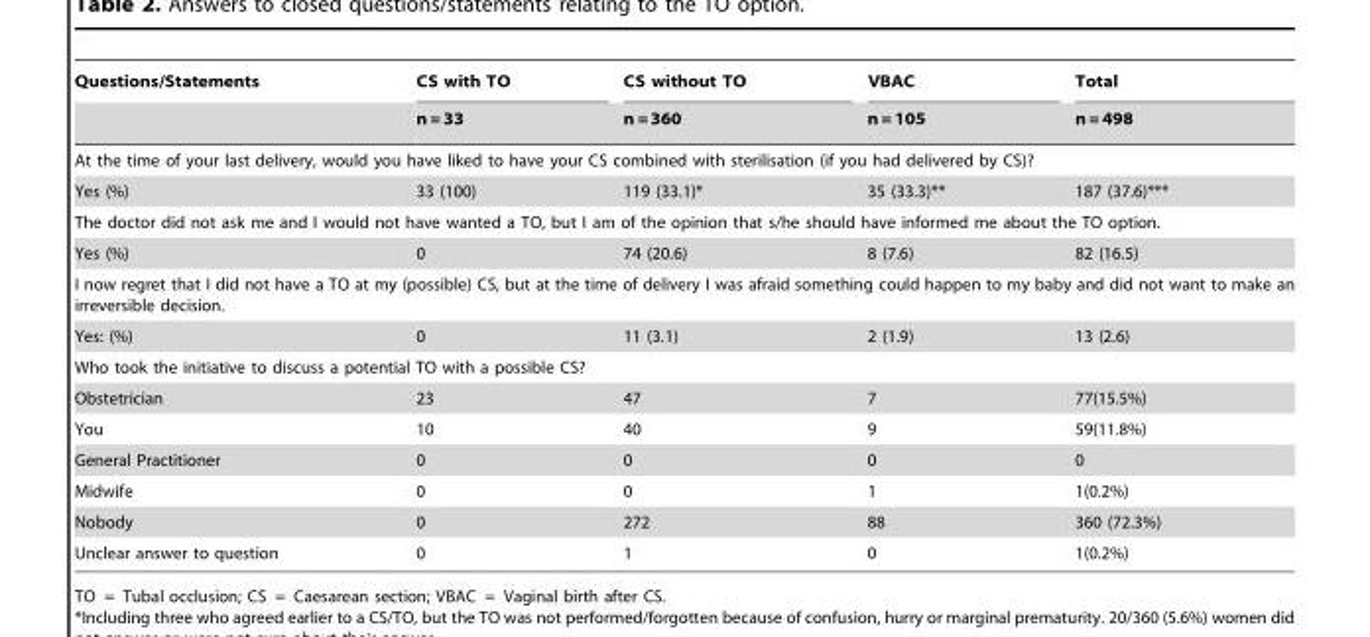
<table><thead><tr><td rowspan="2">Questions/Statements</td><td rowspan="2">CS with TO n = 33</td><td rowspan="2">CS without TO n = 360</td><td rowspan="2">VBAC n = 105</td><td rowspan="2">Total n = 498</td></tr><tr></tr></thead><tbody><tr><td colspan="5">At the time of your last delivery, would you have liked to have your CS combined with sterilisation (if you had delivered by CS)?</td></tr><tr><td>Yes (%)</td><td>33 (100)</td><td>119 (33.1)*</td><td>35 (33.3)**</td><td>187 (37.6)***</td></tr><tr><td colspan="5">The doctor did not ask me and I would not have wanted a TO, but I am of the opinion that s/he should have informed me about the TO option.</td></tr><tr><td>Yes (%)</td><td>0</td><td>74 (20.6)</td><td>8 (7.6)</td><td>82 (16.5)</td></tr><tr><td colspan="5">I now regret that I did not have a TO at my (possible) CS, but at the time of delivery I was afraid something could happen to my baby and did not want to make an irreversible decision.</td></tr><tr><td>Yes: (%)</td><td>0</td><td>11 (3.1)</td><td>2 (1.9)</td><td>13 (2.6)</td></tr><tr><td colspan="5">Who took the initiative to discuss a potential TO with a possible CS?</td></tr><tr><td>Obstetrician</td><td>23</td><td>47</td><td>7</td><td>77(15.5%)</td></tr><tr><td>You</td><td>10</td><td>40</td><td>9</td><td>59(11.8%)</td></tr><tr><td>General Practitioner</td><td>0</td><td>0</td><td>0</td><td>0</td></tr><tr><td>Midwife</td><td>0</td><td>0</td><td>1</td><td>1(0.2%)</td></tr><tr><td>Nobody</td><td>0</td><td>272</td><td>88</td><td>360 (72.3%)</td></tr><tr><td>Unclear answer to question</td><td>0</td><td>1</td><td>0</td><td>1(0.2%)</td></tr></tbody></table>